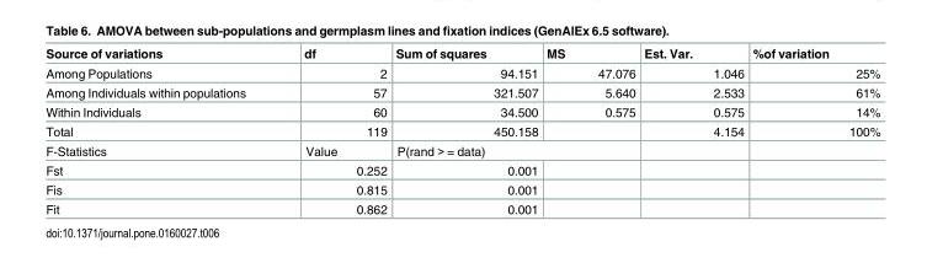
<table><thead><tr><td>Source of variations</td><td>df</td><td>Sum of squares</td><td>MS</td><td>Est. Var.</td><td>%of variation</td></tr></thead><tbody><tr><td>Among Populations</td><td>2</td><td>94.151</td><td>47.076</td><td>1.046</td><td>25%</td></tr><tr><td>Among Individuals within populations</td><td>57</td><td>321.507</td><td>5.640</td><td>2.533</td><td>61%</td></tr><tr><td>Within Individuals</td><td>60</td><td>34.500</td><td>0.575</td><td>0.575</td><td>14%</td></tr><tr><td>Total</td><td>119</td><td>450.158</td><td></td><td>4.154</td><td>100%</td></tr><tr><td>F-Statistics</td><td>Value</td><td colspan="2">P(rand &gt; = data)</td><td></td><td></td></tr><tr><td>Fst</td><td>0.252</td><td>0.001</td><td></td><td></td><td></td></tr><tr><td>Fis</td><td>0.815</td><td>0.001</td><td></td><td></td><td></td></tr><tr><td>Fit</td><td>0.862</td><td>0.001</td><td></td><td></td><td></td></tr></tbody></table>